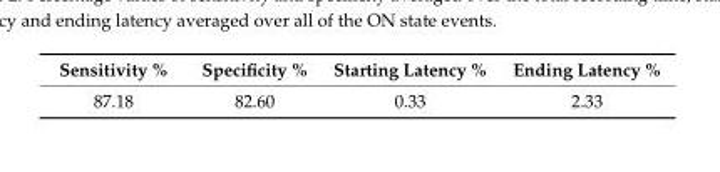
<table><thead><tr><td>Sensitivity %</td><td>Specificity %</td><td>Starting Latency %</td><td>Ending Latency %</td></tr></thead><tbody><tr><td>87.18</td><td>82.60</td><td>0.33</td><td>2.33</td></tr></tbody></table>